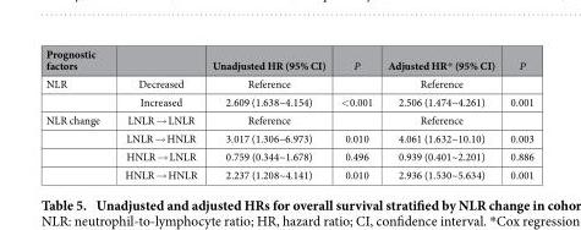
<table><thead><tr><td>Prognostic factors</td><td></td><td>Unadjusted HR (95% CI)</td><td>P</td><td>Adjusted HR* (95% CI)</td><td>P</td></tr></thead><tbody><tr><td rowspan="2">NLR</td><td>Decreased</td><td>Reference</td><td></td><td>Reference</td><td></td></tr><tr><td>Increased</td><td>2.609 (1.638~4.154)</td><td>&lt; 0.001</td><td>2.506 (1.474~4.261)</td><td>0.001</td></tr><tr><td rowspan="4">NLR change</td><td>LNLR → LNLR</td><td>Reference</td><td></td><td>Reference</td><td></td></tr><tr><td>LNLR → HNLR</td><td>3.017 (1.306~6.973)</td><td>0.010</td><td>4.061 (1.632~10.10)</td><td>0.003</td></tr><tr><td>HNLR → LNLR</td><td>0.759 (0.344~1.678)</td><td>0.496</td><td>0.939 (0.401~2.201)</td><td>0.886</td></tr><tr><td>HNLR → HNLR</td><td>2.237 (1.208~4.141)</td><td>0.010</td><td>2.936 (1.530~5.634)</td><td>0.001</td></tr></tbody></table>